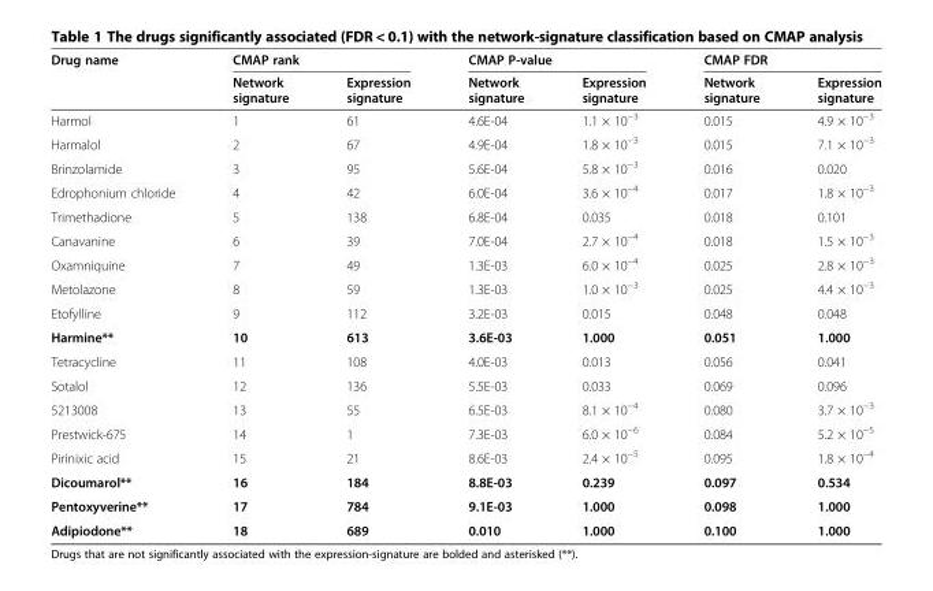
<table><thead><tr><td rowspan="2">Drug name</td><td colspan="2">CMAP rank</td><td colspan="2">CMAP P-value</td><td colspan="2">CMAP FDR</td></tr><tr><td>Network signature</td><td>Expression signature</td><td>Network signature</td><td>Expression signature</td><td>Network signature</td><td>Expression signature</td></tr></thead><tbody><tr><td>Harmol</td><td>1</td><td>61</td><td>4.6E-04</td><td>1.1 × 10<sup>−3</sup></td><td>0.015</td><td>4.9 × 10<sup>−3</sup></td></tr><tr><td>Harmalol</td><td>2</td><td>67</td><td>4.9E-04</td><td>1.8 × 10<sup>−3</sup></td><td>0.015</td><td>7.1 × 10<sup>−3</sup></td></tr><tr><td>Brinzolamide</td><td>3</td><td>95</td><td>5.6E-04</td><td>5.8 × 10<sup>−3</sup></td><td>0.016</td><td>0.020</td></tr><tr><td>Edrophonium chloride</td><td>4</td><td>42</td><td>6.0E-04</td><td>3.6 × 10<sup>−4</sup></td><td>0.017</td><td>1.8 × 10<sup>−3</sup></td></tr><tr><td>Trimethadione</td><td>5</td><td>138</td><td>6.8E-04</td><td>0.035</td><td>0.018</td><td>0.101</td></tr><tr><td>Canavanine</td><td>6</td><td>39</td><td>7.0E-04</td><td>2.7 × 10<sup>−4</sup></td><td>0.018</td><td>1.5 × 10<sup>−3</sup></td></tr><tr><td>Oxamniquine</td><td>7</td><td>49</td><td>1.3E-03</td><td>6.0 × 10<sup>−4</sup></td><td>0.025</td><td>2.8 × 10<sup>−3</sup></td></tr><tr><td>Metolazone</td><td>8</td><td>59</td><td>1.3E-03</td><td>1.0 × 10<sup>−3</sup></td><td>0.025</td><td>4.4 × 10<sup>−3</sup></td></tr><tr><td>Etofylline</td><td>9</td><td>112</td><td>3.2E-03</td><td>0.015</td><td>0.048</td><td>0.048</td></tr><tr><td>Harmine**</td><td>10</td><td>613</td><td>3.6E-03</td><td>1.000</td><td>0.051</td><td>1.000</td></tr><tr><td>Tetracycline</td><td>11</td><td>108</td><td>4.0E-03</td><td>0.013</td><td>0.056</td><td>0.041</td></tr><tr><td>Sotalol</td><td>12</td><td>136</td><td>5.5E-03</td><td>0.033</td><td>0.069</td><td>0.096</td></tr><tr><td>5213008</td><td>13</td><td>55</td><td>6.5E-03</td><td>8.1 × 10<sup>−4</sup></td><td>0.080</td><td>3.7 × 10<sup>−3</sup></td></tr><tr><td>Prestwick-675</td><td>14</td><td>1</td><td>7.3E-03</td><td>6.0 × 10<sup>−6</sup></td><td>0.084</td><td>5.2 × 10<sup>−5</sup></td></tr><tr><td>Pirinixic acid</td><td>15</td><td>21</td><td>8.6E-03</td><td>2.4 × 10<sup>−5</sup></td><td>0.095</td><td>1.8 × 10<sup>−4</sup></td></tr><tr><td>Dicoumarol**</td><td>16</td><td>184</td><td>8.8E-03</td><td>0.239</td><td>0.097</td><td>0.534</td></tr><tr><td>Pentoxyverine**</td><td>17</td><td>784</td><td>9.1E-03</td><td>1.000</td><td>0.098</td><td>1.000</td></tr><tr><td>Adipiodone**</td><td>18</td><td>689</td><td>0.010</td><td>1.000</td><td>0.100</td><td>1.000</td></tr></tbody></table>